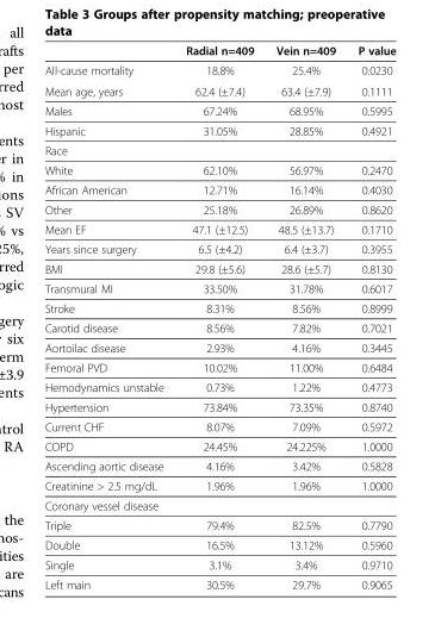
<table><thead><tr><td></td><td>Radial n=409</td><td>Vein n=409</td><td>P value</td></tr></thead><tbody><tr><td>All-cause mortality</td><td>18.8%</td><td>25.4%</td><td>0.0230</td></tr><tr><td>Mean age, years</td><td>62.4 (±7.4)</td><td>63.4 (±7.9)</td><td>0.1111</td></tr><tr><td>Males</td><td>67.24%</td><td>68.95%</td><td>0.5995</td></tr><tr><td>Hispanic</td><td>31.05%</td><td>28.85%</td><td>0.4921</td></tr><tr><td colspan="4">Race</td></tr><tr><td>White</td><td>62.10%</td><td>56.97%</td><td>0.2470</td></tr><tr><td>African American</td><td>12.71%</td><td>16.14%</td><td>0.4030</td></tr><tr><td>Other</td><td>25.18%</td><td>26.89%</td><td>0.8620</td></tr><tr><td>Mean EF</td><td>47.1 (±12.5)</td><td>48.5 (±13.7)</td><td>0.1710</td></tr><tr><td>Years since surgery</td><td>6.5 (±4.2)</td><td>6.4 (±3.7)</td><td>0.3955</td></tr><tr><td>BMI</td><td>29.8 (±5.6)</td><td>28.6 (±5.7)</td><td>0.8130</td></tr><tr><td>Transmural MI</td><td>33.50%</td><td>31.78%</td><td>0.6017</td></tr><tr><td>Stroke</td><td>8.31%</td><td>8.56%</td><td>0.8999</td></tr><tr><td>Carotid disease</td><td>8.56%</td><td>7.82%</td><td>0.7021</td></tr><tr><td>Aortoilac disease</td><td>2.93%</td><td>4.16%</td><td>0.3445</td></tr><tr><td>Femoral PVD</td><td>10.02%</td><td>11.00%</td><td>0.6484</td></tr><tr><td>Hemodynamics unstable</td><td>0.73%</td><td>1.22%</td><td>0.4773</td></tr><tr><td>Hypertension</td><td>73.84%</td><td>73.35%</td><td>0.8740</td></tr><tr><td>Current CHF</td><td>8.07%</td><td>7.09%</td><td>0.5972</td></tr><tr><td>COPD</td><td>24.45%</td><td>24.225%</td><td>1.0000</td></tr><tr><td>Ascending aortic disease</td><td>4.16%</td><td>3.42%</td><td>0.5828</td></tr><tr><td>Creatinine &gt; 2.5 mg/dL</td><td>1.96%</td><td>1.96%</td><td>1.0000</td></tr><tr><td colspan="4">Coronary vessel disease</td></tr><tr><td>Triple</td><td>79.4%</td><td>82.5%</td><td>0.7790</td></tr><tr><td>Double</td><td>16.5%</td><td>13.12%</td><td>0.5960</td></tr><tr><td>Single</td><td>3.1%</td><td>3.4%</td><td>0.9710</td></tr><tr><td>Left main</td><td>30.5%</td><td>29.7%</td><td>0.9065</td></tr></tbody></table>